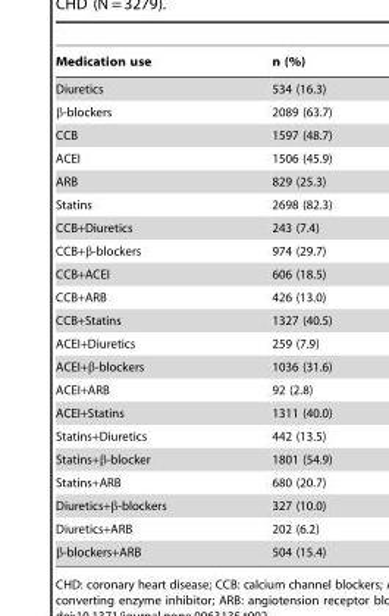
<table><thead><tr><td>Medication use</td><td>n (%)</td></tr></thead><tbody><tr><td>Diuretics</td><td>534 (16.3)</td></tr><tr><td>β-blockers</td><td>2089 (63.7)</td></tr><tr><td>CCB</td><td>1597 (48.7)</td></tr><tr><td>ACEI</td><td>1506 (45.9)</td></tr><tr><td>ARB</td><td>829 (25.3)</td></tr><tr><td>Statins</td><td>2698 (82.3)</td></tr><tr><td>CCB+Diuretics</td><td>243 (7.4)</td></tr><tr><td>CCB+β-blockers</td><td>974 (29.7)</td></tr><tr><td>CCB+ACEI</td><td>606 (18.5)</td></tr><tr><td>CCB+ARB</td><td>426 (13.0)</td></tr><tr><td>CCB+Statins</td><td>1327 (40.5)</td></tr><tr><td>ACEI+Diuretics</td><td>259 (7.9)</td></tr><tr><td>ACEI+β-blockers</td><td>1036 (31.6)</td></tr><tr><td>ACEI+ARB</td><td>92 (2.8)</td></tr><tr><td>ACEI+Statins</td><td>1311 (40.0)</td></tr><tr><td>Statins+Diuretics</td><td>442 (13.5)</td></tr><tr><td>Statins+β-blocker</td><td>1801 (54.9)</td></tr><tr><td>Statins+ARB</td><td>680 (20.7)</td></tr><tr><td>Diuretics+β-blockers</td><td>327 (10.0)</td></tr><tr><td>Diuretics+ARB</td><td>202 (6.2)</td></tr><tr><td>β-blockers+ARB</td><td>504 (15.4)</td></tr></tbody></table>